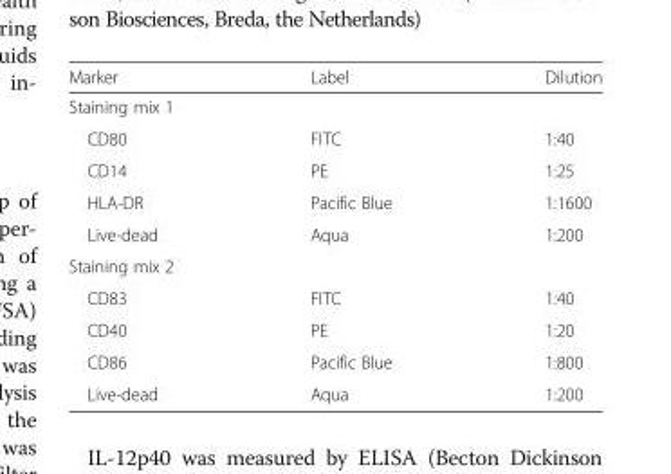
<table><thead><tr><td>Marker</td><td>Label</td><td>Dilution</td></tr></thead><tbody><tr><td colspan="3">Staining mix 1</td></tr><tr><td>CD80</td><td>FITC</td><td>1:40</td></tr><tr><td>CD14</td><td>PE</td><td>1:25</td></tr><tr><td>HLA-DR</td><td>Pacific Blue</td><td>1:1600</td></tr><tr><td>Live-dead</td><td>Aqua</td><td>1:200</td></tr><tr><td colspan="3">Staining mix 2</td></tr><tr><td>CD83</td><td>FITC</td><td>1:40</td></tr><tr><td>CD40</td><td>PE</td><td>1:20</td></tr><tr><td>CD86</td><td>Pacific Blue</td><td>1:800</td></tr><tr><td>Live-dead</td><td>Aqua</td><td>1:200</td></tr></tbody></table>